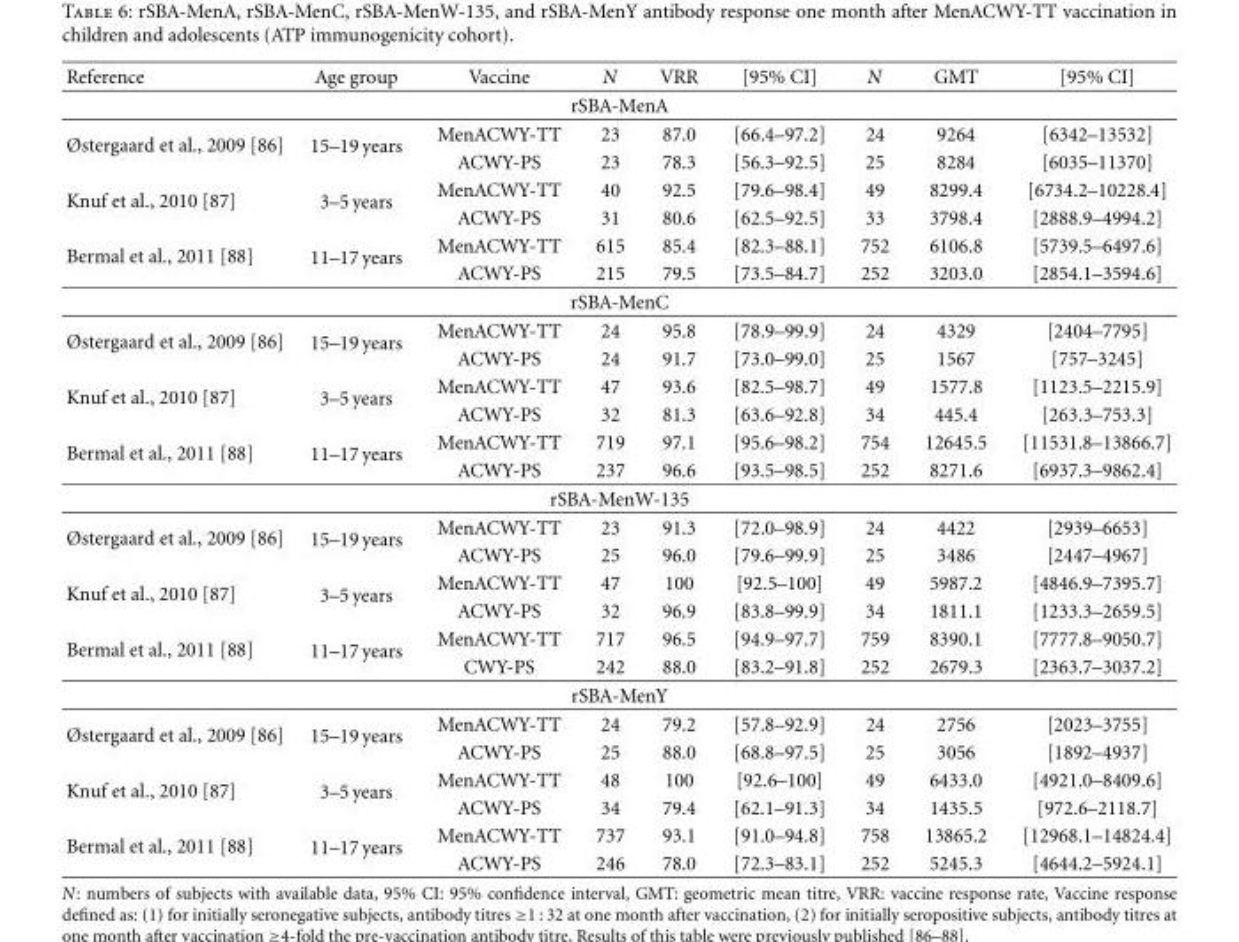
<table><thead><tr><td>Reference</td><td>Age group</td><td>Vaccine</td><td>N</td><td>VRR</td><td>[95% CI]</td><td>N</td><td>GMT</td><td>[95% CI]</td></tr></thead><tbody><tr><td colspan="9">rSBA-MenA</td></tr><tr><td rowspan="2">Østergaard et al., 2009 [86]</td><td rowspan="2">15–19 years</td><td>MenACWY-TT</td><td>23</td><td>87.0</td><td>[66.4–97.2]</td><td>24</td><td>9264</td><td>[6342–13532]</td></tr><tr><td>ACWY-PS</td><td>23</td><td>78.3</td><td>[56.3–92.5]</td><td>25</td><td>8284</td><td>[6035–11370]</td></tr><tr><td rowspan="2">Knuf et al., 2010 [87]</td><td rowspan="2">3–5 years</td><td>MenACWY-TT</td><td>40</td><td>92.5</td><td>[79.6–98.4]</td><td>49</td><td>8299.4</td><td>[6734.2–10228.4]</td></tr><tr><td>ACWY-PS</td><td>31</td><td>80.6</td><td>[62.5–92.5]</td><td>33</td><td>3798.4</td><td>[2888.9–4994.2]</td></tr><tr><td rowspan="2">Bermal et al., 2011 [88]</td><td rowspan="2">11–17 years</td><td>MenACWY-TT</td><td>615</td><td>85.4</td><td>[82.3–88.1]</td><td>752</td><td>6106.8</td><td>[5739.5–6497.6]</td></tr><tr><td>ACWY-PS</td><td>215</td><td>79.5</td><td>[73.5–84.7]</td><td>252</td><td>3203.0</td><td>[2854.1–3594.6]</td></tr><tr><td colspan="9">rSBA-MenC</td></tr><tr><td rowspan="2">Østergaard et al., 2009 [86]</td><td rowspan="2">15–19 years</td><td>MenACWY-TT</td><td>24</td><td>95.8</td><td>[78.9–99.9]</td><td>24</td><td>4329</td><td>[2404–7795]</td></tr><tr><td>ACWY-PS</td><td>24</td><td>91.7</td><td>[73.0–99.0]</td><td>25</td><td>1567</td><td>[757–3245]</td></tr><tr><td rowspan="2">Knuf et al., 2010 [87]</td><td rowspan="2">3–5 years</td><td>MenACWY-TT</td><td>47</td><td>93.6</td><td>[82.5–98.7]</td><td>49</td><td>1577.8</td><td>[1123.5–2215.9]</td></tr><tr><td>ACWY-PS</td><td>32</td><td>81.3</td><td>[63.6–92.8]</td><td>34</td><td>445.4</td><td>[263.3–753.3]</td></tr><tr><td rowspan="2">Bermal et al., 2011 [88]</td><td rowspan="2">11–17 years</td><td>MenACWY-TT</td><td>719</td><td>97.1</td><td>[95.6–98.2]</td><td>754</td><td>12645.5</td><td>[11531.8–13866.7]</td></tr><tr><td>ACWY-PS</td><td>237</td><td>96.6</td><td>[93.5–98.5]</td><td>252</td><td>8271.6</td><td>[6937.3–9862.4]</td></tr><tr><td colspan="9">rSBA-MenW-135</td></tr><tr><td rowspan="2">Østergaard et al., 2009 [86]</td><td rowspan="2">15–19 years</td><td>MenACWY-TT</td><td>23</td><td>91.3</td><td>[72.0–98.9]</td><td>24</td><td>4422</td><td>[2939–6653]</td></tr><tr><td>ACWY-PS</td><td>25</td><td>96.0</td><td>[79.6–99.9]</td><td>25</td><td>3486</td><td>[2447–4967]</td></tr><tr><td rowspan="2">Knuf et al., 2010 [87]</td><td rowspan="2">3–5 years</td><td>MenACWY-TT</td><td>47</td><td>100</td><td>[92.5–100]</td><td>49</td><td>5987.2</td><td>[4846.9–7395.7]</td></tr><tr><td>ACWY-PS</td><td>32</td><td>96.9</td><td>[83.8–99.9]</td><td>34</td><td>1811.1</td><td>[1233.3–2659.5]</td></tr><tr><td rowspan="2">Bermal et al., 2011 [88]</td><td rowspan="2">11–17 years</td><td>MenACWY-TT</td><td>717</td><td>96.5</td><td>[94.9–97.7]</td><td>759</td><td>8390.1</td><td>[7777.8–9050.7]</td></tr><tr><td>CWY-PS</td><td>242</td><td>88.0</td><td>[83.2–91.8]</td><td>252</td><td>2679.3</td><td>[2363.7–3037.2]</td></tr><tr><td colspan="9">rSBA-MenY</td></tr><tr><td rowspan="2">Østergaard et al., 2009 [86]</td><td rowspan="2">15–19 years</td><td>MenACWY-TT</td><td>24</td><td>79.2</td><td>[57.8–92.9]</td><td>24</td><td>2756</td><td>[2023–3755]</td></tr><tr><td>ACWY-PS</td><td>25</td><td>88.0</td><td>[68.8–97.5]</td><td>25</td><td>3056</td><td>[1892–4937]</td></tr><tr><td rowspan="2">Knuf et al., 2010 [87]</td><td rowspan="2">3–5 years</td><td>MenACWY-TT</td><td>48</td><td>100</td><td>[92.6–100]</td><td>49</td><td>6433.0</td><td>[4921.0–8409.6]</td></tr><tr><td>ACWY-PS</td><td>34</td><td>79.4</td><td>[62.1–91.3]</td><td>34</td><td>1435.5</td><td>[972.6–2118.7]</td></tr><tr><td rowspan="2">Bermal et al., 2011 [88]</td><td rowspan="2">11–17 years</td><td>MenACWY-TT</td><td>737</td><td>93.1</td><td>[91.0–94.8]</td><td>758</td><td>13865.2</td><td>[12968.1–14824.4]</td></tr><tr><td>ACWY-PS</td><td>246</td><td>78.0</td><td>[72.3–83.1]</td><td>252</td><td>5245.3</td><td>[4644.2–5924.1]</td></tr></tbody></table>